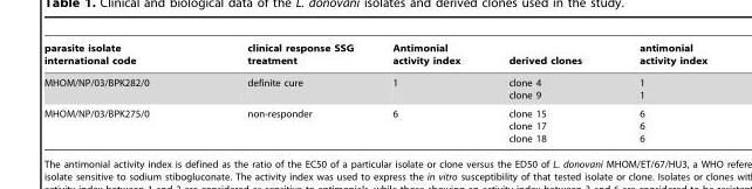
<table><thead><tr><td>parasite isolate international code</td><td>clinical response SSG treatment</td><td>Antimonial activity index</td><td>derived clones</td><td>antimonial activity index</td></tr></thead><tbody><tr><td>MHOM/NP/03/BPK282/0</td><td>definite cure</td><td>1</td><td>clone 4 clone 9</td><td>1 1</td></tr><tr><td>MHOM/NP/03/BPK275/0</td><td>non-responder</td><td>6</td><td>clone 15 clone 17 clone 18</td><td>6 6 6</td></tr></tbody></table>